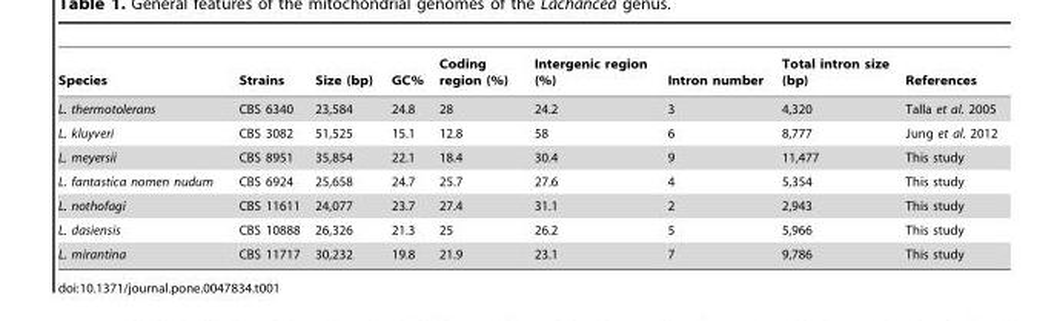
<table><thead><tr><td>Species</td><td>Strains</td><td>Size (bp)</td><td>GC%</td><td>Coding region (%)</td><td>Intergenic region (%)</td><td>Intron number</td><td>Total intron size (bp)</td><td>References</td></tr></thead><tbody><tr><td>L. thermotolerans</td><td>CBS 6340</td><td>23,584</td><td>24.8</td><td>28</td><td>24.2</td><td>3</td><td>4,320</td><td>Talla et al. 2005</td></tr><tr><td>L. kluyveri</td><td>CBS 3082</td><td>51,525</td><td>15.1</td><td>12.8</td><td>58</td><td>6</td><td>8,777</td><td>Jung et al. 2012</td></tr><tr><td>L. meyersii</td><td>CBS 8951</td><td>35,854</td><td>22.1</td><td>18.4</td><td>30.4</td><td>9</td><td>11,477</td><td>This study</td></tr><tr><td>L. fantastica nomen nudum</td><td>CBS 6924</td><td>25,658</td><td>24.7</td><td>25.7</td><td>27.6</td><td>4</td><td>5,354</td><td>This study</td></tr><tr><td>L. nothofagi</td><td>CBS 11611</td><td>24,077</td><td>23.7</td><td>27.4</td><td>31.1</td><td>2</td><td>2,943</td><td>This study</td></tr><tr><td>L. dasiensis</td><td>CBS 10888</td><td>26,326</td><td>21.3</td><td>25</td><td>26.2</td><td>5</td><td>5,966</td><td>This study</td></tr><tr><td>L. mirantina</td><td>CBS 11717</td><td>30,232</td><td>19.8</td><td>21.9</td><td>23.1</td><td>7</td><td>9,786</td><td>This study</td></tr></tbody></table>